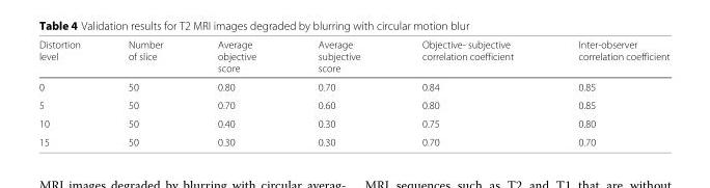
<table><thead><tr><td>Distortion level</td><td>Number of slice</td><td>Average objective score</td><td>Average subjective score</td><td>Objective- subjective correlation coefficient</td><td>Inter-observer correlation coefficient</td></tr></thead><tbody><tr><td>0</td><td>50</td><td>0.80</td><td>0.70</td><td>0.84</td><td>0.85</td></tr><tr><td>5</td><td>50</td><td>0.70</td><td>0.60</td><td>0.80</td><td>0.85</td></tr><tr><td>10</td><td>50</td><td>0.40</td><td>0.30</td><td>0.75</td><td>0.80</td></tr><tr><td>15</td><td>50</td><td>0.30</td><td>0.30</td><td>0.70</td><td>0.70</td></tr></tbody></table>